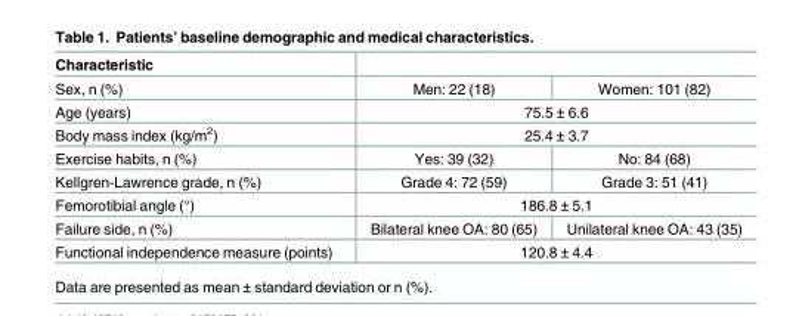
<table><thead><tr><td>Characteristic</td><td></td><td></td></tr></thead><tbody><tr><td>Sex, n (%)</td><td>Men: 22 (18)</td><td>Women: 101 (82)</td></tr><tr><td>Age (years)</td><td colspan="2">75.5 ± 6.6</td></tr><tr><td>Body mass index (kg/m<sup>2</sup>)</td><td colspan="2">25.4 ± 3.7</td></tr><tr><td>Exercise habits, n (%)</td><td>Yes: 39 (32)</td><td>No: 84 (68)</td></tr><tr><td>Kellgren-Lawrence grade, n (%)</td><td>Grade 4: 72 (59)</td><td>Grade 3: 51 (41)</td></tr><tr><td>Femorotibial angle (°)</td><td colspan="2">186.8 ± 5.1</td></tr><tr><td>Failure side, n (%)</td><td>Bilateral knee OA: 80 (65)</td><td>Unilateral knee OA: 43 (35)</td></tr><tr><td>Functional independence measure (points)</td><td colspan="2">120.8 ± 4.4</td></tr></tbody></table>